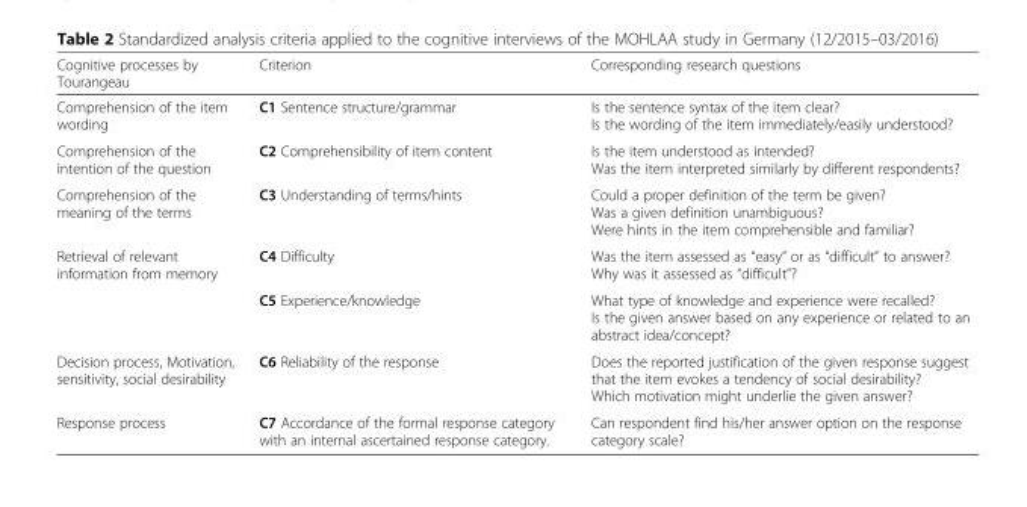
<table><thead><tr><td>Cognitive processes by Tourangeau</td><td>Criterion</td><td>Corresponding research questions</td></tr></thead><tbody><tr><td>Comprehension of the item wording</td><td>C1 Sentence structure/grammar</td><td>Is the sentence syntax of the item clear? Is the wording of the item immediately/easily understood?</td></tr><tr><td>Comprehension of the intention of the question</td><td>C2 Comprehensibility of item content</td><td>Is the item understood as intended? Was the item interpreted similarly by different respondents?</td></tr><tr><td>Comprehension of the meaning of the terms</td><td>C3 Understanding of terms/hints</td><td>Could a proper definition of the term be given? Was a given definition unambiguous? Were hints in the item comprehensible and familiar?</td></tr><tr><td rowspan="2">Retrieval of relevant information from memory</td><td>C4 Difficulty</td><td>Was the item assessed as “easy” or as “difficult” to answer? Why was it assessed as “difficult”?</td></tr><tr><td>C5 Experience/knowledge</td><td>What type of knowledge and experience were recalled? Is the given answer based on any experience or related to an abstract idea/concept?</td></tr><tr><td>Decision process, Motivation, sensitivity, social desirability</td><td>C6 Reliability of the response</td><td>Does the reported justification of the given response suggest that the item evokes a tendency of social desirability? Which motivation might underlie the given answer?</td></tr><tr><td>Response process</td><td>C7 Accordance of the formal response category with an internal ascertained response category.</td><td>Can respondent find his/her answer option on the response category scale?</td></tr></tbody></table>